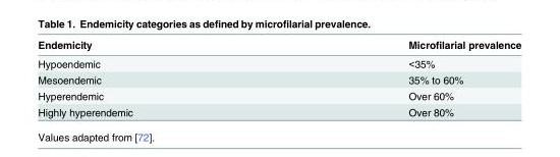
<table><thead><tr><td>Endemicity</td><td>Microfilarial prevalence</td></tr></thead><tbody><tr><td>Hypoendemic</td><td>&lt;35%</td></tr><tr><td>Mesoendemic</td><td>35% to 60%</td></tr><tr><td>Hyperendemic</td><td>Over 60%</td></tr><tr><td>Highly hyperendemic</td><td>Over 80%</td></tr></tbody></table>